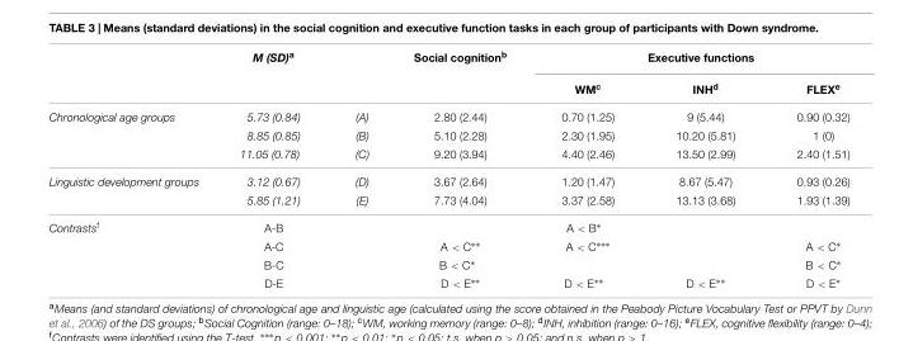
<table><thead><tr><td rowspan="2"></td><td rowspan="2">M (SD)<sup>a</sup></td><td rowspan="2"></td><td rowspan="2">Social cognition<sup>b</sup></td><td colspan="3">Executive functions</td></tr><tr><td>WM<sup>c</sup></td><td>INH<sup>d</sup></td><td>FLEX<sup>e</sup></td></tr></thead><tbody><tr><td rowspan="3">Chronological age groups</td><td>5.73 (0.84)</td><td>(A)</td><td>2.80 (2.44)</td><td>0.70 (1.25)</td><td>9 (5.44)</td><td>0.90 (0.32)</td></tr><tr><td>8.85 (0.85)</td><td>(B)</td><td>5.10 (2.28)</td><td>2.30 (1.95)</td><td>10.20 (5.81)</td><td>1 (0)</td></tr><tr><td>11.05 (0.78)</td><td>(C)</td><td>9.20 (3.94)</td><td>4.40 (2.46)</td><td>13.50 (2.99)</td><td>2.40 (1.51)</td></tr><tr><td rowspan="2">Linguistic development groups</td><td>3.12 (0.67)</td><td>(D)</td><td>3.67 (2.64)</td><td>1.20 (1.47)</td><td>8.67 (5.47)</td><td>0.93 (0.26)</td></tr><tr><td>5.85 (1.21)</td><td>(E)</td><td>7.73 (4.04)</td><td>3.37 (2.58)</td><td>13.13 (3.68)</td><td>1.93 (1.39)</td></tr><tr><td rowspan="4">Contrasts<sup>f</sup></td><td>A-B</td><td></td><td></td><td>A &lt; B∗</td><td></td><td></td></tr><tr><td>A-C</td><td></td><td>A &lt; C∗∗</td><td>A &lt; C∗∗∗</td><td></td><td>A &lt; C∗</td></tr><tr><td>B-C</td><td></td><td>B &lt; C∗</td><td></td><td></td><td>B &lt; C∗</td></tr><tr><td>D-E</td><td></td><td>D &lt; E∗∗</td><td>D &lt; E∗∗</td><td>D &lt; E∗∗</td><td>D &lt; E∗</td></tr></tbody></table>